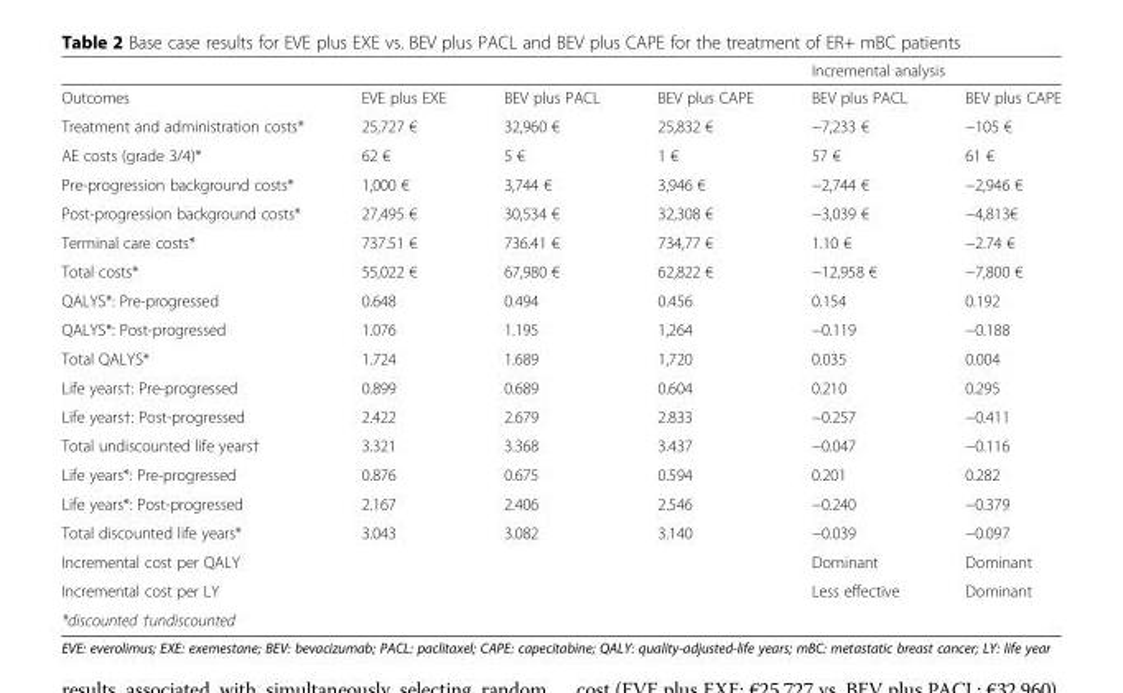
<table><thead><tr><td rowspan="2">Outcomes</td><td rowspan="2">EVE plus EXE</td><td rowspan="2">BEV plus PACL</td><td rowspan="2">BEV plus CAPE</td><td colspan="2">Incremental analysis</td></tr><tr><td>BEV plus PACL</td><td>BEV plus CAPE</td></tr></thead><tbody><tr><td>Treatment and administration costs*</td><td>25,727 €</td><td>32,960 €</td><td>25,832 €</td><td>−7,233 €</td><td>−105 €</td></tr><tr><td>AE costs (grade 3/4)*</td><td>62 €</td><td>5 €</td><td>1 €</td><td>57 €</td><td>61 €</td></tr><tr><td>Pre-progression background costs*</td><td>1,000 €</td><td>3,744 €</td><td>3,946 €</td><td>−2,744 €</td><td>−2,946 €</td></tr><tr><td>Post-progression background costs*</td><td>27,495 €</td><td>30,534 €</td><td>32,308 €</td><td>−3,039 €</td><td>−4,813€</td></tr><tr><td>Terminal care costs*</td><td>737.51 €</td><td>736.41 €</td><td>734,77 €</td><td>1.10 €</td><td>−2.74 €</td></tr><tr><td>Total costs*</td><td>55,022 €</td><td>67,980 €</td><td>62,822 €</td><td>−12,958 €</td><td>−7,800 €</td></tr><tr><td>QALYS*: Pre-progressed</td><td>0.648</td><td>0.494</td><td>0.456</td><td>0.154</td><td>0.192</td></tr><tr><td>QALYS*: Post-progressed</td><td>1.076</td><td>1.195</td><td>1,264</td><td>−0.119</td><td>−0.188</td></tr><tr><td>Total QALYS*</td><td>1.724</td><td>1.689</td><td>1,720</td><td>0.035</td><td>0.004</td></tr><tr><td>Life years†: Pre-progressed</td><td>0.899</td><td>0.689</td><td>0.604</td><td>0.210</td><td>0.295</td></tr><tr><td>Life years†: Post-progressed</td><td>2.422</td><td>2.679</td><td>2.833</td><td>−0.257</td><td>−0.411</td></tr><tr><td>Total undiscounted life years†</td><td>3.321</td><td>3.368</td><td>3.437</td><td>−0.047</td><td>−0.116</td></tr><tr><td>Life years*: Pre-progressed</td><td>0.876</td><td>0.675</td><td>0.594</td><td>0.201</td><td>0.282</td></tr><tr><td>Life years*: Post-progressed</td><td>2.167</td><td>2.406</td><td>2.546</td><td>−0.240</td><td>−0.379</td></tr><tr><td>Total discounted life years*</td><td>3.043</td><td>3.082</td><td>3.140</td><td>−0.039</td><td>−0.097</td></tr><tr><td>Incremental cost per QALY</td><td></td><td></td><td></td><td>Dominant</td><td>Dominant</td></tr><tr><td>Incremental cost per LY</td><td></td><td></td><td></td><td>Less effective</td><td>Dominant</td></tr><tr><td>*discounted †undiscounted</td><td></td><td></td><td></td><td></td><td></td></tr></tbody></table>